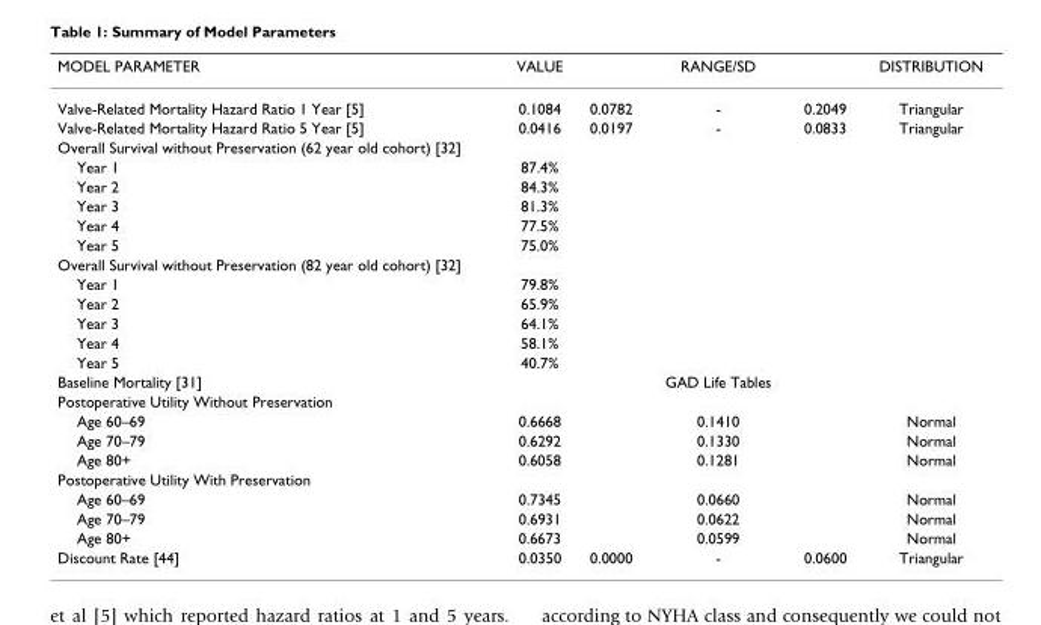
<table><thead><tr><td>MODEL PARAMETER</td><td>VALUE</td><td></td><td>RANGE/SD</td><td></td><td>DISTRIBUTION</td></tr></thead><tbody><tr><td>Valve-Related Mortality Hazard Ratio 1 Year [5]</td><td>0.1084</td><td>0.0782</td><td>-</td><td>0.2049</td><td>Triangular</td></tr><tr><td>Valve-Related Mortality Hazard Ratio 5 Year [5]</td><td>0.0416</td><td>0.0197</td><td>-</td><td>0.0833</td><td>Triangular</td></tr><tr><td colspan="6">Overall Survival without Preservation (62 year old cohort) [32]</td></tr><tr><td>Year 1</td><td>87.4%</td><td></td><td></td><td></td><td></td></tr><tr><td>Year 2</td><td>84.3%</td><td></td><td></td><td></td><td></td></tr><tr><td>Year 3</td><td>81.3%</td><td></td><td></td><td></td><td></td></tr><tr><td>Year 4</td><td>77.5%</td><td></td><td></td><td></td><td></td></tr><tr><td>Year 5</td><td>75.0%</td><td></td><td></td><td></td><td></td></tr><tr><td colspan="6">Overall Survival without Preservation (82 year old cohort) [32]</td></tr><tr><td>Year 1</td><td>79.8%</td><td></td><td></td><td></td><td></td></tr><tr><td>Year 2</td><td>65.9%</td><td></td><td></td><td></td><td></td></tr><tr><td>Year 3</td><td>64.1%</td><td></td><td></td><td></td><td></td></tr><tr><td>Year 4</td><td>58.1%</td><td></td><td></td><td></td><td></td></tr><tr><td>Year 5</td><td>40.7%</td><td></td><td></td><td></td><td></td></tr><tr><td>Baseline Mortality [31]</td><td></td><td></td><td>GAD Life Tables</td><td></td><td></td></tr><tr><td colspan="6">Postoperative Utility Without Preservation</td></tr><tr><td>Age 60–69</td><td>0.6668</td><td></td><td>0.1410</td><td></td><td>Normal</td></tr><tr><td>Age 70–79</td><td>0.6292</td><td></td><td>0.1330</td><td></td><td>Normal</td></tr><tr><td>Age 80+</td><td>0.6058</td><td></td><td>0.1281</td><td></td><td>Normal</td></tr><tr><td colspan="6">Postoperative Utility With Preservation</td></tr><tr><td>Age 60–69</td><td>0.7345</td><td></td><td>0.0660</td><td></td><td>Normal</td></tr><tr><td>Age 70–79</td><td>0.6931</td><td></td><td>0.0622</td><td></td><td>Normal</td></tr><tr><td>Age 80+</td><td>0.6673</td><td></td><td>0.0599</td><td></td><td>Normal</td></tr><tr><td>Discount Rate [44]</td><td>0.0350</td><td>0.0000</td><td>-</td><td>0.0600</td><td>Triangular</td></tr></tbody></table>